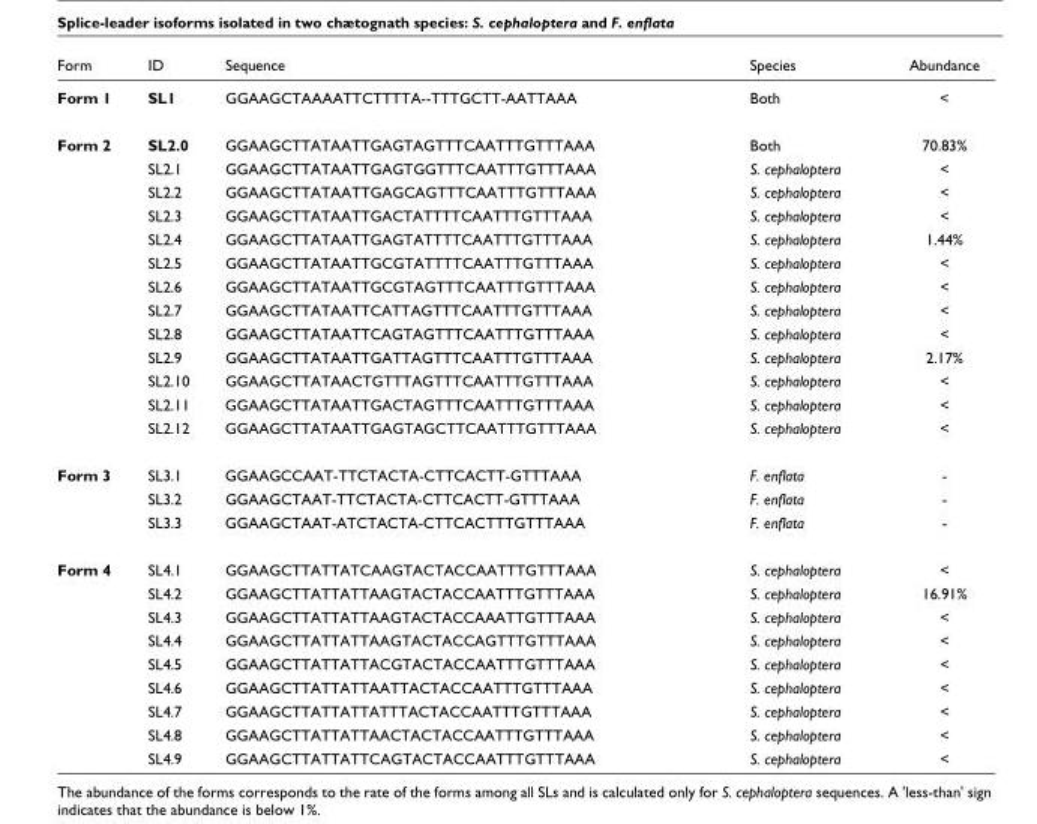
<table><thead><tr><td>Form</td><td>ID</td><td>Sequence</td><td>Species</td><td>Abundance</td></tr></thead><tbody><tr><td>Form 1</td><td>SL1</td><td>GGAAGCTAAAATTCTTTTA--TTTGCTT-AATTAAA</td><td>Both</td><td>&lt;</td></tr><tr><td rowspan="13">Form 2</td><td>SL2.0</td><td>GGAAGCTTATAATTGAGTAGTTTCAATTTGTTTAAA</td><td>Both</td><td>70.83%</td></tr><tr><td>SL2.1</td><td>GGAAGCTTATAATTGAGTGGTTTCAATTTGTTTAAA</td><td>S. cephaloptera</td><td>&lt;</td></tr><tr><td>SL2.2</td><td>GGAAGCTTATAATTGAGCAGTTTCAATTTGTTTAAA</td><td>S. cephaloptera</td><td>&lt;</td></tr><tr><td>SL2.3</td><td>GGAAGCTTATAATTGACTATTTTCAATTTGTTTAAA</td><td>S. cephaloptera</td><td>&lt;</td></tr><tr><td>SL2.4</td><td>GGAAGCTTATAATTGAGTATTTTCAATTTGTTTAAA</td><td>S. cephaloptera</td><td>1.44%</td></tr><tr><td>SL2.5</td><td>GGAAGCTTATAATTGCGTATTTTCAATTTGTTTAAA</td><td>S. cephaloptera</td><td>&lt;</td></tr><tr><td>SL2.6</td><td>GGAAGCTTATAATTGCGTAGTTTCAATTTGTTTAAA</td><td>S. cephaloptera</td><td>&lt;</td></tr><tr><td>SL2.7</td><td>GGAAGCTTATAATTCATTAGTTTCAATTTGTTTAAA</td><td>S. cephaloptera</td><td>&lt;</td></tr><tr><td>SL2.8</td><td>GGAAGCTTATAATTCAGTAGTTTCAATTTGTTTAAA</td><td>S. cephaloptera</td><td>&lt;</td></tr><tr><td>SL2.9</td><td>GGAAGCTTATAATTGATTAGTTTCAATTTGTTTAAA</td><td>S. cephaloptera</td><td>2.17%</td></tr><tr><td>SL2.10</td><td>GGAAGCTTATAACTGTTTAGTTTCAATTTGTTTAAA</td><td>S. cephaloptera</td><td>&lt;</td></tr><tr><td>SL2.11</td><td>GGAAGCTTATAATTGACTAGTTTCAATTTGTTTAAA</td><td>S. cephaloptera</td><td>&lt;</td></tr><tr><td>SL2.12</td><td>GGAAGCTTATAATTGAGTAGCTTCAATTTGTTTAAA</td><td>S. cephaloptera</td><td>&lt;</td></tr><tr><td rowspan="3">Form 3</td><td>SL3.1</td><td>GGAAGCCAAT-TTCTACTA-CTTCACTT-GTTTAAA</td><td>F. enflata</td><td>-</td></tr><tr><td>SL3.2</td><td>GGAAGCTAAT-TTCTACTA-CTTCACTT-GTTTAAA</td><td>F. enflata</td><td>-</td></tr><tr><td>SL3.3</td><td>GGAAGCTAAT-ATCTACTA-CTTCACTTTGTTTAAA</td><td>F. enflata</td><td>-</td></tr><tr><td rowspan="9">Form 4</td><td>SL4.1</td><td>GGAAGCTTATTATCAAGTACTACCAATTTGTTTAAA</td><td>S. cephaloptera</td><td>&lt;</td></tr><tr><td>SL4.2</td><td>GGAAGCTTATTATTAAGTACTACCAATTTGTTTAAA</td><td>S. cephaloptera</td><td>16.91%</td></tr><tr><td>SL4.3</td><td>GGAAGCTTATTATTAAGTACTACCAAATTGTTTAAA</td><td>S. cephaloptera</td><td>&lt;</td></tr><tr><td>SL4.4</td><td>GGAAGCTTATTATTAAGTACTACCAGTTTGTTTAAA</td><td>S. cephaloptera</td><td>&lt;</td></tr><tr><td>SL4.5</td><td>GGAAGCTTATTATTACGTACTACCAATTTGTTTAAA</td><td>S. cephaloptera</td><td>&lt;</td></tr><tr><td>SL4.6</td><td>GGAAGCTTATTATTAATTACTACCAATTTGTTTAAA</td><td>S. cephaloptera</td><td>&lt;</td></tr><tr><td>SL4.7</td><td>GGAAGCTTATTATTATTTACTACCAATTTGTTTAAA</td><td>S. cephaloptera</td><td>&lt;</td></tr><tr><td>SL4.8</td><td>GGAAGCTTATTATTAACTACTACCAATTTGTTTAAA</td><td>S. cephaloptera</td><td>&lt;</td></tr><tr><td>SL4.9</td><td>GGAAGCTTATTATTCAGTACTACCAATTTGTTTAAA</td><td>S. cephaloptera</td><td>&lt;</td></tr></tbody></table>